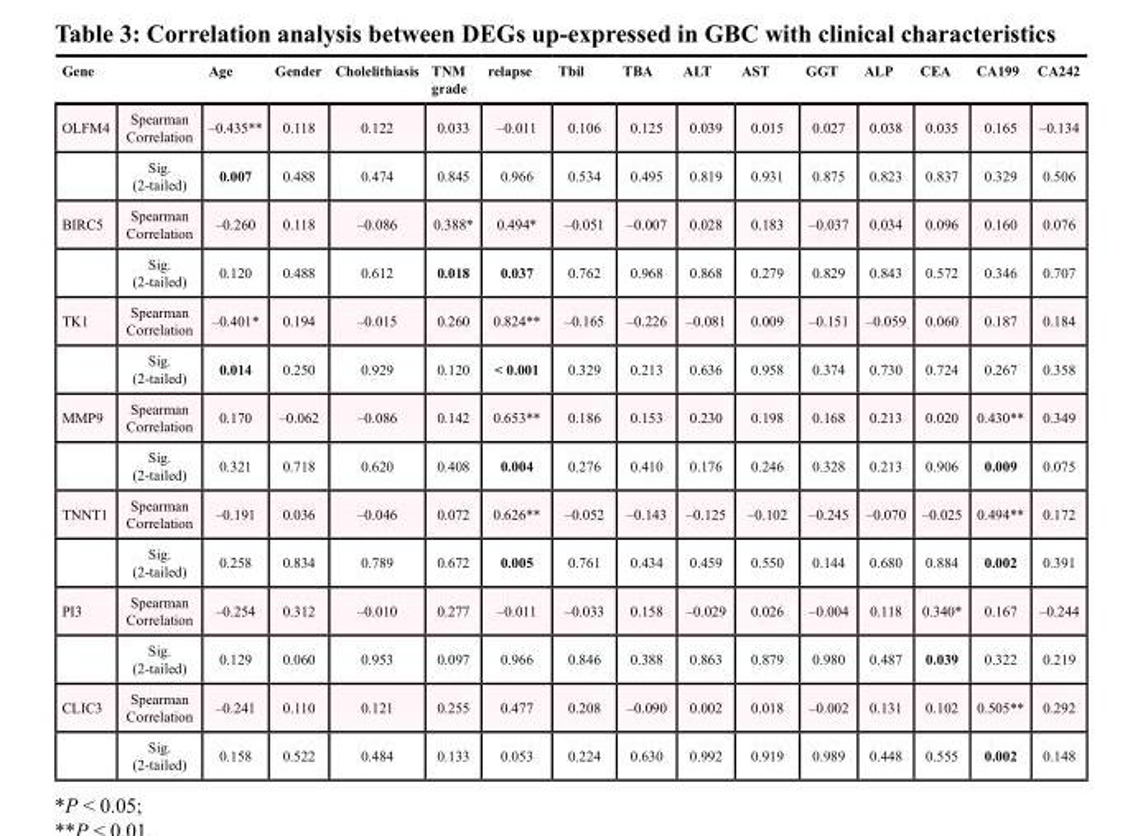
<table><thead><tr><td colspan="2">Gene</td><td rowspan="2">Age –0.435**</td><td rowspan="2">Gender 0.118</td><td rowspan="2">Cholelithiasis 0.122</td><td rowspan="2">TNM grade 0.033</td><td rowspan="2">relapse –0.011</td><td rowspan="2">Tbil 0.106</td><td rowspan="2">TBA 0.125</td><td rowspan="2">ALT 0.039</td><td rowspan="2">AST 0.015</td><td rowspan="2">GGT 0.027</td><td rowspan="2">ALP 0.038</td><td rowspan="2">CEA 0.035</td><td rowspan="2">CA199 0.165</td><td rowspan="2">CA242 –0.134</td></tr><tr><td>OLFM4</td><td>Spearman Correlation</td></tr></thead><tbody><tr><td></td><td>Sig. (2-tailed)</td><td>0.007</td><td>0.488</td><td>0.474</td><td>0.845</td><td>0.966</td><td>0.534</td><td>0.495</td><td>0.819</td><td>0.931</td><td>0.875</td><td>0.823</td><td>0.837</td><td>0.329</td><td>0.506</td></tr><tr><td rowspan="2">BIRC5</td><td>Spearman Correlation</td><td>–0.260</td><td>0.118</td><td>–0.086</td><td>0.388*</td><td>0.494*</td><td>–0.051</td><td>–0.007</td><td>0.028</td><td>0.183</td><td>–0.037</td><td>0.034</td><td>0.096</td><td>0.160</td><td>0.076</td></tr><tr><td>Sig. (2-tailed)</td><td>0.120</td><td>0.488</td><td>0.612</td><td>0.018</td><td>0.037</td><td>0.762</td><td>0.968</td><td>0.868</td><td>0.279</td><td>0.829</td><td>0.843</td><td>0.572</td><td>0.346</td><td>0.707</td></tr><tr><td rowspan="2">TK1</td><td>Spearman Correlation</td><td>–0.401*</td><td>0.194</td><td>–0.015</td><td>0.260</td><td>0.824**</td><td>–0.165</td><td>–0.226</td><td>–0.081</td><td>0.009</td><td>–0.151</td><td>–0.059</td><td>0.060</td><td>0.187</td><td>0.184</td></tr><tr><td>Sig. (2-tailed)</td><td>0.014</td><td>0.250</td><td>0.929</td><td>0.120</td><td>&lt; 0.001</td><td>0.329</td><td>0.213</td><td>0.636</td><td>0.958</td><td>0.374</td><td>0.730</td><td>0.724</td><td>0.267</td><td>0.358</td></tr><tr><td rowspan="2">MMP9</td><td>Spearman Correlation</td><td>0.170</td><td>–0.062</td><td>–0.086</td><td>0.142</td><td>0.653**</td><td>0.186</td><td>0.153</td><td>0.230</td><td>0.198</td><td>0.168</td><td>0.213</td><td>0.020</td><td>0.430**</td><td>0.349</td></tr><tr><td>Sig. (2-tailed)</td><td>0.321</td><td>0.718</td><td>0.620</td><td>0.408</td><td>0.004</td><td>0.276</td><td>0.410</td><td>0.176</td><td>0.246</td><td>0.328</td><td>0.213</td><td>0.906</td><td>0.009</td><td>0.075</td></tr><tr><td rowspan="2">TNNT1</td><td>Spearman Correlation</td><td>–0.191</td><td>0.036</td><td>–0.046</td><td>0.072</td><td>0.626**</td><td>–0.052</td><td>–0.143</td><td>–0.125</td><td>–0.102</td><td>–0.245</td><td>–0.070</td><td>–0.025</td><td>0.494**</td><td>0.172</td></tr><tr><td>Sig. (2-tailed)</td><td>0.258</td><td>0.834</td><td>0.789</td><td>0.672</td><td>0.005</td><td>0.761</td><td>0.434</td><td>0.459</td><td>0.550</td><td>0.144</td><td>0.680</td><td>0.884</td><td>0.002</td><td>0.391</td></tr><tr><td rowspan="2">PI3</td><td>Spearman Correlation</td><td>–0.254</td><td>0.312</td><td>–0.010</td><td>0.277</td><td>–0.011</td><td>–0.033</td><td>0.158</td><td>–0.029</td><td>0.026</td><td>–0.004</td><td>0.118</td><td>0.340*</td><td>0.167</td><td>–0.244</td></tr><tr><td>Sig. (2-tailed)</td><td>0.129</td><td>0.060</td><td>0.953</td><td>0.097</td><td>0.966</td><td>0.846</td><td>0.388</td><td>0.863</td><td>0.879</td><td>0.980</td><td>0.487</td><td>0.039</td><td>0.322</td><td>0.219</td></tr><tr><td rowspan="2">CLIC3</td><td>Spearman Correlation</td><td>–0.241</td><td>0.110</td><td>0.121</td><td>0.255</td><td>0.477</td><td>0.208</td><td>–0.090</td><td>0.002</td><td>0.018</td><td>–0.002</td><td>0.131</td><td>0.102</td><td>0.505**</td><td>0.292</td></tr><tr><td>Sig. (2-tailed)</td><td>0.158</td><td>0.522</td><td>0.484</td><td>0.133</td><td>0.053</td><td>0.224</td><td>0.630</td><td>0.992</td><td>0.919</td><td>0.989</td><td>0.448</td><td>0.555</td><td>0.002</td><td>0.148</td></tr></tbody></table>